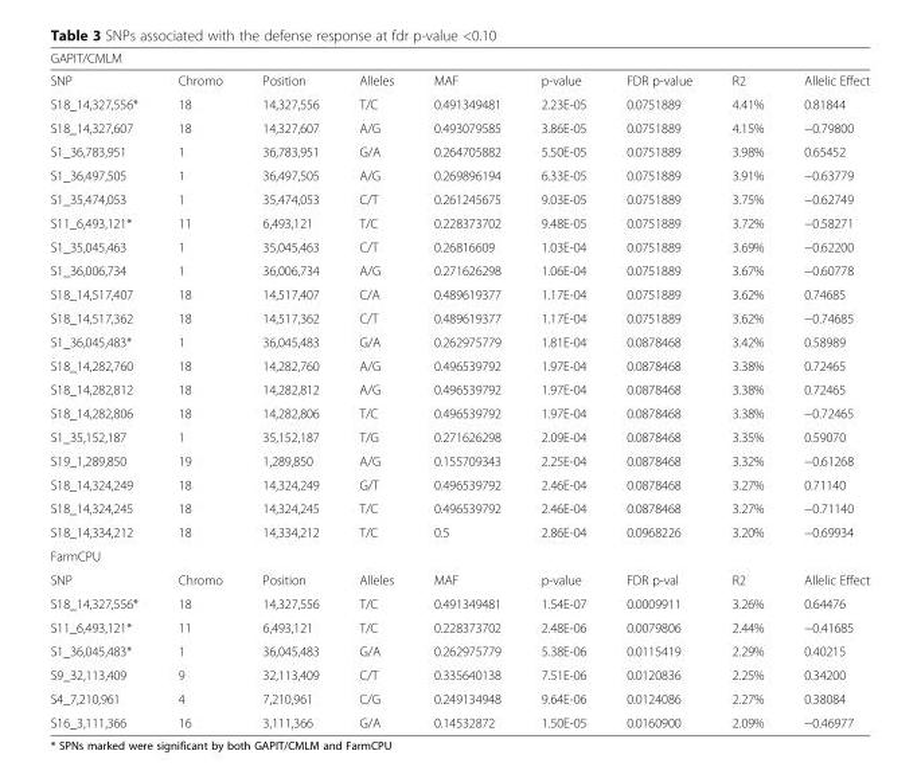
<table><thead><tr><td colspan="9">GAPIT/CMLM</td></tr><tr><td>SNP</td><td>Chromo</td><td>Position</td><td>Alleles</td><td>MAF</td><td>p-value</td><td>FDR p-value</td><td>R2</td><td>Allelic Effect</td></tr></thead><tbody><tr><td>S18_14,327,556*</td><td>18</td><td>14,327,556</td><td>T/C</td><td>0.491349481</td><td>2.23E-05</td><td>0.0751889</td><td>4.41%</td><td>0.81844</td></tr><tr><td>S18_14,327,607</td><td>18</td><td>14,327,607</td><td>A/G</td><td>0.493079585</td><td>3.86E-05</td><td>0.0751889</td><td>4.15%</td><td>−0.79800</td></tr><tr><td>S1_36,783,951</td><td>1</td><td>36,783,951</td><td>G/A</td><td>0.264705882</td><td>5.50E-05</td><td>0.0751889</td><td>3.98%</td><td>0.65452</td></tr><tr><td>S1_36,497,505</td><td>1</td><td>36,497,505</td><td>A/G</td><td>0.269896194</td><td>6.33E-05</td><td>0.0751889</td><td>3.91%</td><td>−0.63779</td></tr><tr><td>S1_35,474,053</td><td>1</td><td>35,474,053</td><td>C/T</td><td>0.261245675</td><td>9.03E-05</td><td>0.0751889</td><td>3.75%</td><td>−0.62749</td></tr><tr><td>S11_6,493,121*</td><td>11</td><td>6,493,121</td><td>T/C</td><td>0.228373702</td><td>9.48E-05</td><td>0.0751889</td><td>3.72%</td><td>−0.58271</td></tr><tr><td>S1_35,045,463</td><td>1</td><td>35,045,463</td><td>C/T</td><td>0.26816609</td><td>1.03E-04</td><td>0.0751889</td><td>3.69%</td><td>−0.62200</td></tr><tr><td>S1_36,006,734</td><td>1</td><td>36,006,734</td><td>A/G</td><td>0.271626298</td><td>1.06E-04</td><td>0.0751889</td><td>3.67%</td><td>−0.60778</td></tr><tr><td>S18_14,517,407</td><td>18</td><td>14,517,407</td><td>C/A</td><td>0.489619377</td><td>1.17E-04</td><td>0.0751889</td><td>3.62%</td><td>0.74685</td></tr><tr><td>S18_14,517,362</td><td>18</td><td>14,517,362</td><td>C/T</td><td>0.489619377</td><td>1.17E-04</td><td>0.0751889</td><td>3.62%</td><td>−0.74685</td></tr><tr><td>S1_36,045,483*</td><td>1</td><td>36,045,483</td><td>G/A</td><td>0.262975779</td><td>1.81E-04</td><td>0.0878468</td><td>3.42%</td><td>0.58989</td></tr><tr><td>S18_14,282,760</td><td>18</td><td>14,282,760</td><td>A/G</td><td>0.496539792</td><td>1.97E-04</td><td>0.0878468</td><td>3.38%</td><td>0.72465</td></tr><tr><td>S18_14,282,812</td><td>18</td><td>14,282,812</td><td>A/G</td><td>0.496539792</td><td>1.97E-04</td><td>0.0878468</td><td>3.38%</td><td>0.72465</td></tr><tr><td>S18_14,282,806</td><td>18</td><td>14,282,806</td><td>T/C</td><td>0.496539792</td><td>1.97E-04</td><td>0.0878468</td><td>3.38%</td><td>−0.72465</td></tr><tr><td>S1_35,152,187</td><td>1</td><td>35,152,187</td><td>T/G</td><td>0.271626298</td><td>2.09E-04</td><td>0.0878468</td><td>3.35%</td><td>0.59070</td></tr><tr><td>S19_1,289,850</td><td>19</td><td>1,289,850</td><td>A/G</td><td>0.155709343</td><td>2.25E-04</td><td>0.0878468</td><td>3.32%</td><td>−0.61268</td></tr><tr><td>S18_14,324,249</td><td>18</td><td>14,324,249</td><td>G/T</td><td>0.496539792</td><td>2.46E-04</td><td>0.0878468</td><td>3.27%</td><td>0.71140</td></tr><tr><td>S18_14,324,245</td><td>18</td><td>14,324,245</td><td>T/C</td><td>0.496539792</td><td>2.46E-04</td><td>0.0878468</td><td>3.27%</td><td>−0.71140</td></tr><tr><td>S18_14,334,212</td><td>18</td><td>14,334,212</td><td>T/C</td><td>0.5</td><td>2.86E-04</td><td>0.0968226</td><td>3.20%</td><td>−0.69934</td></tr><tr><td colspan="9">FarmCPU</td></tr><tr><td>SNP</td><td>Chromo</td><td>Position</td><td>Alleles</td><td>MAF</td><td>p-value</td><td>FDR p-val</td><td>R2</td><td>Allelic Effect</td></tr><tr><td>S18_14,327,556*</td><td>18</td><td>14,327,556</td><td>T/C</td><td>0.491349481</td><td>1.54E-07</td><td>0.0009911</td><td>3.26%</td><td>0.64476</td></tr><tr><td>S11_6,493,121*</td><td>11</td><td>6,493,121</td><td>T/C</td><td>0.228373702</td><td>2.48E-06</td><td>0.0079806</td><td>2.44%</td><td>−0.41685</td></tr><tr><td>S1_36,045,483*</td><td>1</td><td>36,045,483</td><td>G/A</td><td>0.262975779</td><td>5.38E-06</td><td>0.0115419</td><td>2.29%</td><td>0.40215</td></tr><tr><td>S9_32,113,409</td><td>9</td><td>32,113,409</td><td>C/T</td><td>0.335640138</td><td>7.51E-06</td><td>0.0120836</td><td>2.25%</td><td>0.34200</td></tr><tr><td>S4_7,210,961</td><td>4</td><td>7,210,961</td><td>C/G</td><td>0.249134948</td><td>9.64E-06</td><td>0.0124086</td><td>2.27%</td><td>0.38084</td></tr><tr><td>S16_3,111,366</td><td>16</td><td>3,111,366</td><td>G/A</td><td>0.14532872</td><td>1.50E-05</td><td>0.0160900</td><td>2.09%</td><td>−0.46977</td></tr></tbody></table>